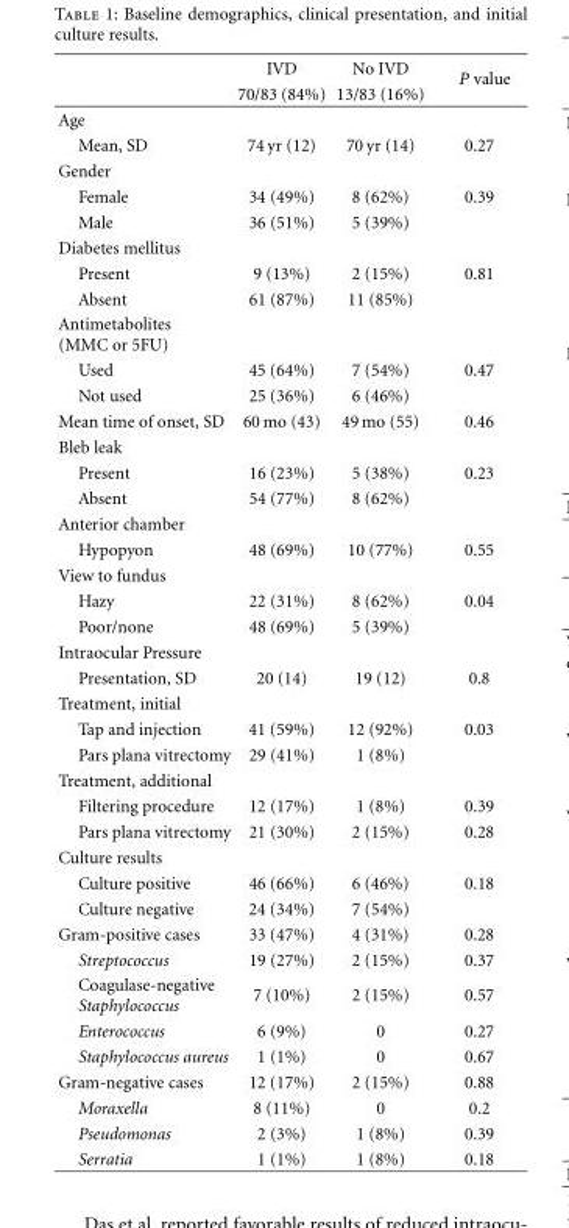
<table><thead><tr><td rowspan="2"></td><td rowspan="2">IVD 70/83 (84%)</td><td rowspan="2">No IVD 13/83 (16%)</td><td rowspan="2">P value</td></tr><tr></tr></thead><tbody><tr><td colspan="4">Age</td></tr><tr><td>Mean, SD</td><td>74 yr (12)</td><td>70 yr (14)</td><td>0.27</td></tr><tr><td colspan="4">Gender</td></tr><tr><td>Female</td><td>34 (49%)</td><td>8 (62%)</td><td>0.39</td></tr><tr><td>Male</td><td>36 (51%)</td><td>5 (39%)</td><td></td></tr><tr><td colspan="4">Diabetes mellitus</td></tr><tr><td>Present</td><td>9 (13%)</td><td>2 (15%)</td><td>0.81</td></tr><tr><td>Absent</td><td>61 (87%)</td><td>11 (85%)</td><td></td></tr><tr><td colspan="4">Antimetabolites (MMC or 5FU)</td></tr><tr><td>Used</td><td>45 (64%)</td><td>7 (54%)</td><td>0.47</td></tr><tr><td>Not used</td><td>25 (36%)</td><td>6 (46%)</td><td></td></tr><tr><td>Mean time of onset, SD</td><td>60 mo (43)</td><td>49 mo (55)</td><td>0.46</td></tr><tr><td colspan="4">Bleb leak</td></tr><tr><td>Present</td><td>16 (23%)</td><td>5 (38%)</td><td>0.23</td></tr><tr><td>Absent</td><td>54 (77%)</td><td>8 (62%)</td><td></td></tr><tr><td colspan="4">Anterior chamber</td></tr><tr><td>Hypopyon</td><td>48 (69%)</td><td>10 (77%)</td><td>0.55</td></tr><tr><td colspan="4">View to fundus</td></tr><tr><td>Hazy</td><td>22 (31%)</td><td>8 (62%)</td><td>0.04</td></tr><tr><td>Poor/none</td><td>48 (69%)</td><td>5 (39%)</td><td></td></tr><tr><td colspan="4">Intraocular Pressure</td></tr><tr><td>Presentation, SD</td><td>20 (14)</td><td>19 (12)</td><td>0.8</td></tr><tr><td colspan="4">Treatment, initial</td></tr><tr><td>Tap and injection</td><td>41 (59%)</td><td>12 (92%)</td><td>0.03</td></tr><tr><td>Pars plana vitrectomy</td><td>29 (41%)</td><td>1 (8%)</td><td></td></tr><tr><td colspan="4">Treatment, additional</td></tr><tr><td>Filtering procedure</td><td>12 (17%)</td><td>1 (8%)</td><td>0.39</td></tr><tr><td>Pars plana vitrectomy</td><td>21 (30%)</td><td>2 (15%)</td><td>0.28</td></tr><tr><td colspan="4">Culture results</td></tr><tr><td>Culture positive</td><td>46 (66%)</td><td>6 (46%)</td><td>0.18</td></tr><tr><td>Culture negative</td><td>24 (34%)</td><td>7 (54%)</td><td></td></tr><tr><td>Gram-positive cases</td><td>33 (47%)</td><td>4 (31%)</td><td>0.28</td></tr><tr><td>Streptococcus</td><td>19 (27%)</td><td>2 (15%)</td><td>0.37</td></tr><tr><td>Coagulase-negative Staphylococcus</td><td>7 (10%)</td><td>2 (15%)</td><td>0.57</td></tr><tr><td>Enterococcus</td><td>6 (9%)</td><td>0</td><td>0.27</td></tr><tr><td>Staphylococcus aureus</td><td>1 (1%)</td><td>0</td><td>0.67</td></tr><tr><td>Gram-negative cases</td><td>12 (17%)</td><td>2 (15%)</td><td>0.88</td></tr><tr><td>Moraxella</td><td>8 (11%)</td><td>0</td><td>0.2</td></tr><tr><td>Pseudomonas</td><td>2 (3%)</td><td>1 (8%)</td><td>0.39</td></tr><tr><td>Serratia</td><td>1 (1%)</td><td>1 (8%)</td><td>0.18</td></tr></tbody></table>